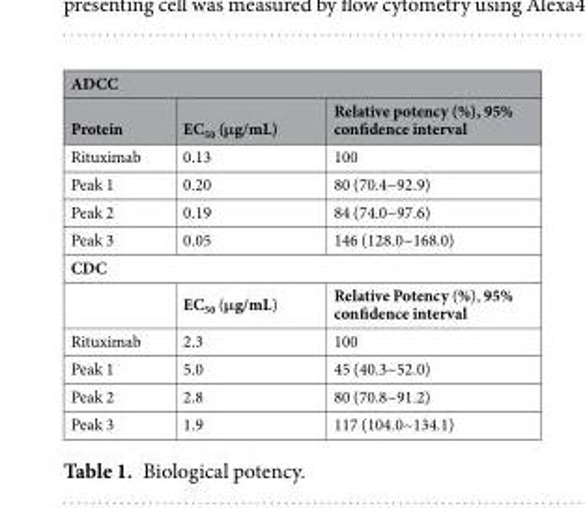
<table><thead><tr><td colspan="3">ADCC</td></tr><tr><td>Protein</td><td>EC<sub>50</sub> (μg/mL)</td><td>Relative potency (%), 95% confidence interval</td></tr></thead><tbody><tr><td>Rituximab</td><td>0.13</td><td>100</td></tr><tr><td>Peak 1</td><td>0.20</td><td>80 (70.4~92.9)</td></tr><tr><td>Peak 2</td><td>0.19</td><td>84 (74.0~97.6)</td></tr><tr><td>Peak 3</td><td>0.05</td><td>146 (128.0~168.0)</td></tr><tr><td colspan="3">CDC</td></tr><tr><td></td><td>EC<sub>50</sub> (μg/mL)</td><td>Relative Potency (%), 95% confidence interval</td></tr><tr><td>Rituximab</td><td>2.3</td><td>100</td></tr><tr><td>Peak 1</td><td>5.0</td><td>45 (40.3~52.0)</td></tr><tr><td>Peak 2</td><td>2.8</td><td>80 (70.8~91.2)</td></tr><tr><td>Peak 3</td><td>1.9</td><td>117 (104.0~134.1)</td></tr></tbody></table>